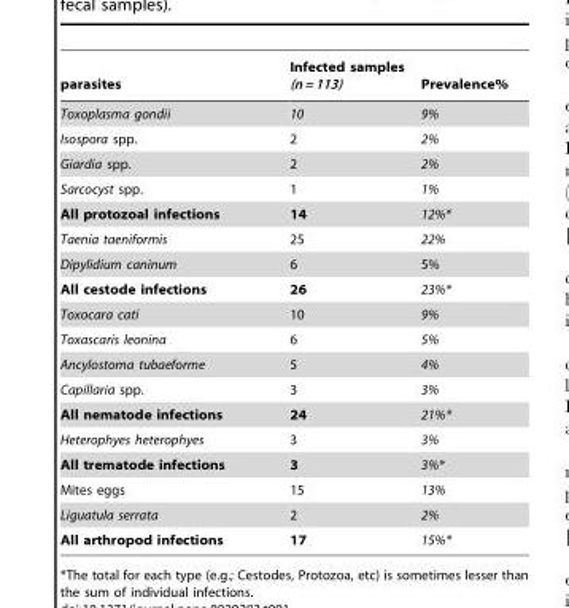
<table><thead><tr><td>parasites</td><td>Infected samples (n = 113)</td><td>Prevalence%</td></tr></thead><tbody><tr><td>Toxoplasma gondii</td><td>10</td><td>9%</td></tr><tr><td>Isospora spp.</td><td>2</td><td>2%</td></tr><tr><td>Giardia spp.</td><td>2</td><td>2%</td></tr><tr><td>Sarcocyst spp.</td><td>1</td><td>1%</td></tr><tr><td>All protozoal infections</td><td>14</td><td>12%*</td></tr><tr><td>Taenia taeniformis</td><td>25</td><td>22%</td></tr><tr><td>Dipylidium caninum</td><td>6</td><td>5%</td></tr><tr><td>All cestode infections</td><td>26</td><td>23%*</td></tr><tr><td>Toxocara cati</td><td>10</td><td>9%</td></tr><tr><td>Toxascaris leonina</td><td>6</td><td>5%</td></tr><tr><td>Ancylostoma tubaeforme</td><td>5</td><td>4%</td></tr><tr><td>Capillaria spp.</td><td>3</td><td>3%</td></tr><tr><td>All nematode infections</td><td>24</td><td>21%*</td></tr><tr><td>Heterophyes heterophyes</td><td>3</td><td>3%</td></tr><tr><td>All trematode infections</td><td>3</td><td>3%*</td></tr><tr><td>Mites eggs</td><td>15</td><td>13%</td></tr><tr><td>Liguatula serrata</td><td>2</td><td>2%</td></tr><tr><td>All arthropod infections</td><td>17</td><td>15%*</td></tr></tbody></table>